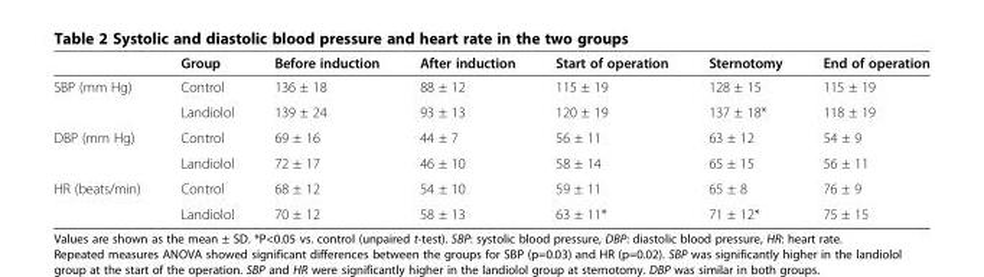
<table><thead><tr><td></td><td>Group</td><td>Before induction</td><td>After induction</td><td>Start of operation</td><td>Sternotomy</td><td>End of operation</td></tr></thead><tbody><tr><td rowspan="2">SBP (mm Hg)</td><td>Control</td><td>136 ± 18</td><td>88 ± 12</td><td>115 ± 19</td><td>128 ± 15</td><td>115 ± 19</td></tr><tr><td>Landiolol</td><td>139 ± 24</td><td>93 ± 13</td><td>120 ± 19</td><td>137 ± 18*</td><td>118 ± 19</td></tr><tr><td rowspan="2">DBP (mm Hg)</td><td>Control</td><td>69 ± 16</td><td>44 ± 7</td><td>56 ± 11</td><td>63 ± 12</td><td>54 ± 9</td></tr><tr><td>Landiolol</td><td>72 ± 17</td><td>46 ± 10</td><td>58 ± 14</td><td>65 ± 15</td><td>56 ± 11</td></tr><tr><td rowspan="2">HR (beats/min)</td><td>Control</td><td>68 ± 12</td><td>54 ± 10</td><td>59 ± 11</td><td>65 ± 8</td><td>76 ± 9</td></tr><tr><td>Landiolol</td><td>70 ± 12</td><td>58 ± 13</td><td>63 ± 11*</td><td>71 ± 12*</td><td>75 ± 15</td></tr></tbody></table>